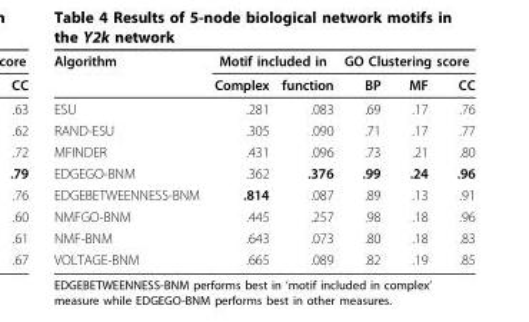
<table><thead><tr><td rowspan="2">Algorithm</td><td colspan="2">Motif included in</td><td colspan="3">GO Clustering score</td></tr><tr><td>Complex</td><td>function</td><td>BP</td><td>MF</td><td>CC</td></tr></thead><tbody><tr><td>ESU</td><td>.281</td><td>.083</td><td>.69</td><td>.17</td><td>.76</td></tr><tr><td>RAND-ESU</td><td>.305</td><td>.090</td><td>.71</td><td>.17</td><td>.77</td></tr><tr><td>MFINDER</td><td>.431</td><td>.096</td><td>.73</td><td>.21</td><td>.80</td></tr><tr><td>EDGEGO-BNM</td><td>.362</td><td>.376</td><td>.99</td><td>.24</td><td>.96</td></tr><tr><td>EDGEBETWEENNESS-BNM</td><td>.814</td><td>.087</td><td>.89</td><td>.13</td><td>.91</td></tr><tr><td>NMFGO-BNM</td><td>.445</td><td>.257</td><td>.98</td><td>.18</td><td>.96</td></tr><tr><td>NMF-BNM</td><td>.643</td><td>.073</td><td>.80</td><td>.18</td><td>.83</td></tr><tr><td>VOLTAGE-BNM</td><td>.665</td><td>.089</td><td>.82</td><td>.19</td><td>.85</td></tr></tbody></table>